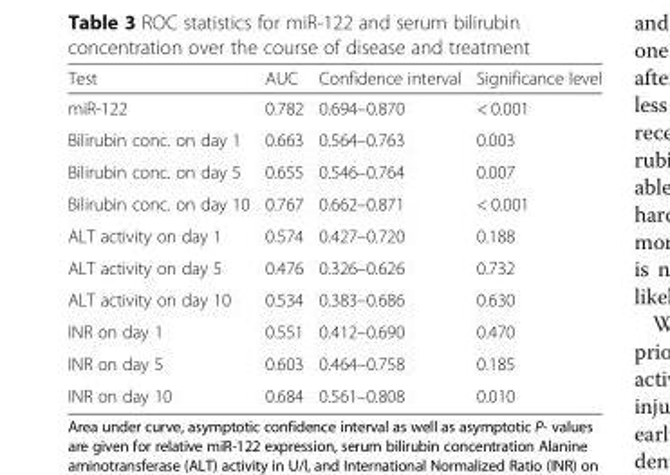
<table><thead><tr><td>Test</td><td>AUC</td><td>Confidence interval</td><td>Significance level</td></tr></thead><tbody><tr><td>miR-122</td><td>0.782</td><td>0.694–0.870</td><td>&lt; 0.001</td></tr><tr><td>Bilirubin conc. on day 1</td><td>0.663</td><td>0.564–0.763</td><td>0.003</td></tr><tr><td>Bilirubin conc. on day 5</td><td>0.655</td><td>0.546–0.764</td><td>0.007</td></tr><tr><td>Bilirubin conc. on day 10</td><td>0.767</td><td>0.662–0.871</td><td>&lt; 0.001</td></tr><tr><td>ALT activity on day 1</td><td>0.574</td><td>0.427–0.720</td><td>0.188</td></tr><tr><td>ALT activity on day 5</td><td>0.476</td><td>0.326–0.626</td><td>0.732</td></tr><tr><td>ALT activity on day 10</td><td>0.534</td><td>0.383–0.686</td><td>0.630</td></tr><tr><td>INR on day 1</td><td>0.551</td><td>0.412–0.690</td><td>0.470</td></tr><tr><td>INR on day 5</td><td>0.603</td><td>0.464–0.758</td><td>0.185</td></tr><tr><td>INR on day 10</td><td>0.684</td><td>0.561–0.808</td><td>0.010</td></tr></tbody></table>